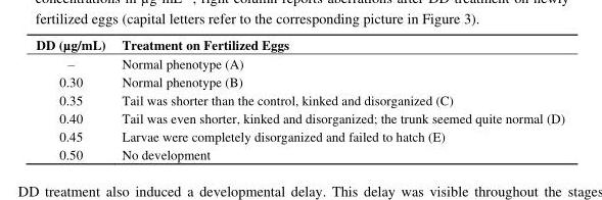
<table><thead><tr><td>DD (µg/mL)</td><td>Treatment on Fertilized Eggs</td></tr></thead><tbody><tr><td>–</td><td>Normal phenotype (A)</td></tr><tr><td>0.30</td><td>Normal phenotype (B)</td></tr><tr><td>0.35</td><td>Tail was shorter than the control, kinked and disorganized (C)</td></tr><tr><td>0.40</td><td>Tail was even shorter, kinked and disorganized; the trunk seemed quite normal (D)</td></tr><tr><td>0.45</td><td>Larvae were completely disorganized and failed to hatch (E)</td></tr><tr><td>0.50</td><td>No development</td></tr></tbody></table>